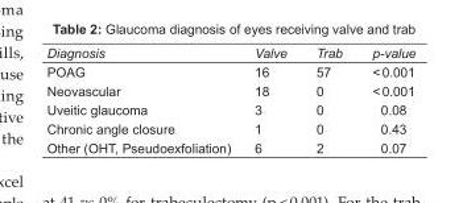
<table><tbody><tr><td>Diagnosis</td><td>Valve</td><td>Trab</td><td>p-value</td></tr><tr><td>POAG</td><td>16</td><td>57</td><td>&lt; 0.001</td></tr><tr><td>Neovascular</td><td>18</td><td>0</td><td>&lt; 0.001</td></tr><tr><td>Uveitic glaucoma</td><td>3</td><td>0</td><td>0.08</td></tr><tr><td>Chronic angle closure</td><td>1</td><td>0</td><td>0.43</td></tr><tr><td>Other (OHT, Pseudoexfoliation)</td><td>6</td><td>2</td><td>0.07</td></tr></tbody></table>